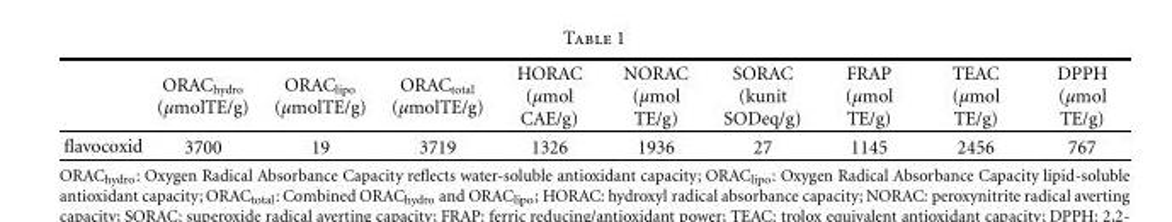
<table><thead><tr><td></td><td>ORAC<sub>hydro</sub> (μmolTE/g)</td><td>ORAC<sub>lipo</sub> (μmolTE/g)</td><td>ORAC<sub>total</sub> (μmolTE/g)</td><td>HORAC (μmol CAE/g)</td><td>NORAC (μmol TE/g)</td><td>SORAC (kunit SODeq/g)</td><td>FRAP (μmol TE/g)</td><td>TEAC (μmol TE/g)</td><td>DPPH (μmol TE/g)</td></tr></thead><tbody><tr><td>flavocoxid</td><td>3700</td><td>19</td><td>3719</td><td>1326</td><td>1936</td><td>27</td><td>1145</td><td>2456</td><td>767</td></tr></tbody></table>